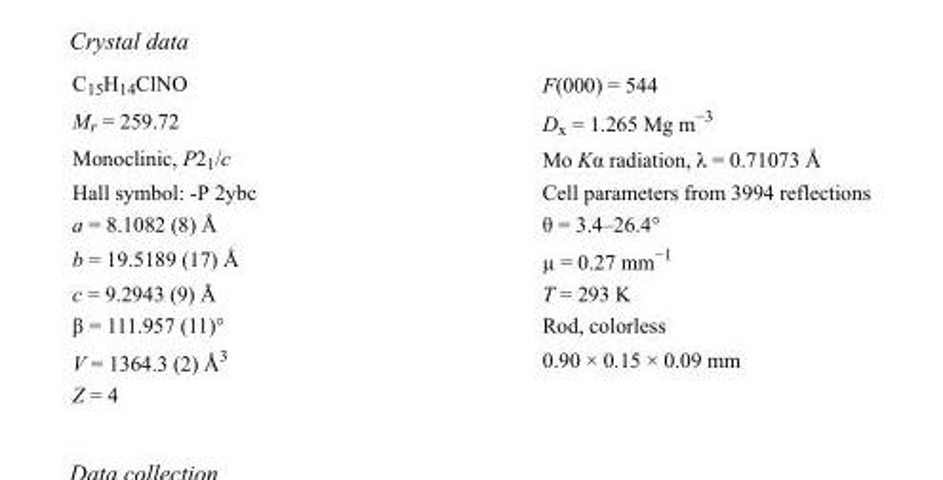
<table><tbody><tr><td>C<sub>15</sub>H<sub>14</sub>ClNO</td><td>F(000) = 544</td></tr><tr><td>M<sub>r</sub> = 259.72</td><td>D<sub>x</sub> = 1.265 Mg m<sup>−3</sup></td></tr><tr><td>Monoclinic, P2<sub>1</sub>/c</td><td>Mo Kα radiation, λ = 0.71073 Å</td></tr><tr><td>Hall symbol: -P 2ybc</td><td>Cell parameters from 3994 reflections</td></tr><tr><td>a = 8.1082 (8) Å</td><td>θ = 3.4–26.4°</td></tr><tr><td>b = 19.5189 (17) Å</td><td>µ = 0.27 mm<sup>−1</sup></td></tr><tr><td>c = 9.2943 (9) Å</td><td>T = 293 K</td></tr><tr><td>β = 111.957 (11)°</td><td>Rod, colorless</td></tr><tr><td>V = 1364.3 (2) Å<sup>3</sup></td><td>0.90 × 0.15 × 0.09 mm</td></tr><tr><td>Z = 4</td><td></td></tr></tbody></table>